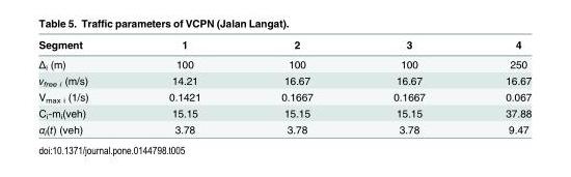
<table><thead><tr><td>Segment</td><td>1</td><td>2</td><td>3</td><td>4</td></tr></thead><tbody><tr><td>Δ<sub>i</sub> (m)</td><td>100</td><td>100</td><td>100</td><td>250</td></tr><tr><td>v<sub>free i</sub> (m/s)</td><td>14.21</td><td>16.67</td><td>16.67</td><td>16.67</td></tr><tr><td>V<sub>max i</sub> (1/s)</td><td>0.1421</td><td>0.1667</td><td>0.1667</td><td>0.067</td></tr><tr><td>C<sub>i</sub>-m<sub>i</sub>(veh)</td><td>15.15</td><td>15.15</td><td>15.15</td><td>37.88</td></tr><tr><td>α<sub>i</sub>(t) (veh)</td><td>3.78</td><td>3.78</td><td>3.78</td><td>9.47</td></tr></tbody></table>